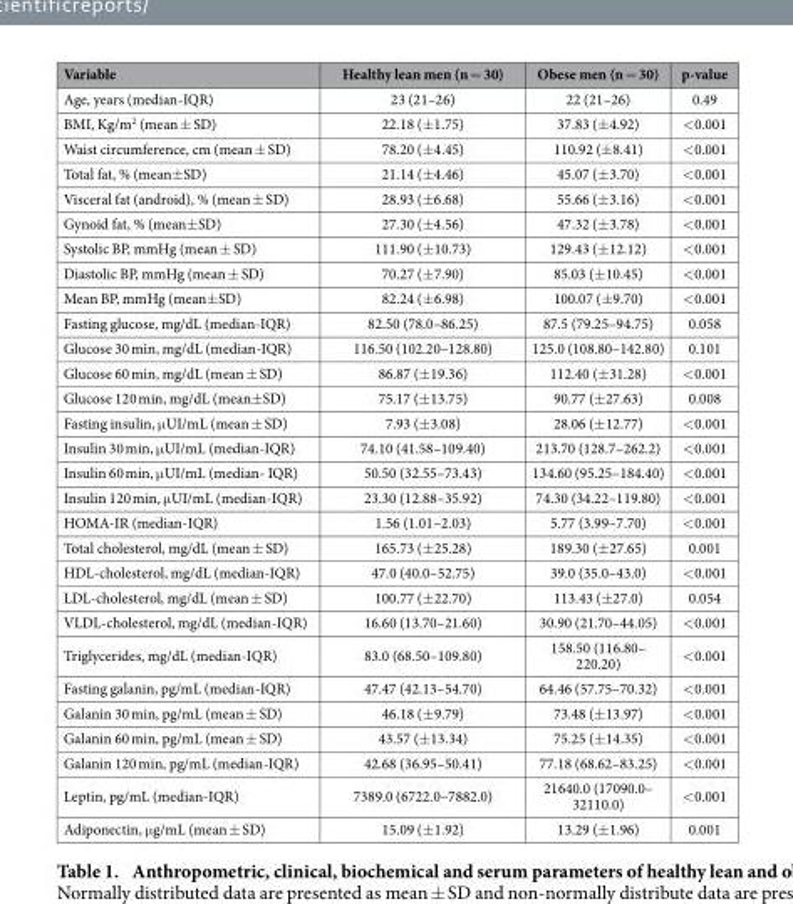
<table><thead><tr><td>Variable</td><td>Healthy lean men (n = 30)</td><td>Obese men (n = 30)</td><td>p-value</td></tr></thead><tbody><tr><td>Age, years (median-IQR)</td><td>23 (21–26)</td><td>22 (21–26)</td><td>0.49</td></tr><tr><td>BMI, Kg/m<sup>2</sup> (mean ± SD)</td><td>22.18 (± 1.75)</td><td>37.83 (± 4.92)</td><td>&lt; 0.001</td></tr><tr><td>Waist circumference, cm (mean ± SD)</td><td>78.20 (± 4.45)</td><td>110.92 (± 8.41)</td><td>&lt; 0.001</td></tr><tr><td>Total fat, % (mean± SD)</td><td>21.14 (± 4.46)</td><td>45.07 (± 3.70)</td><td>&lt; 0.001</td></tr><tr><td>Visceral fat (android), % (mean ± SD)</td><td>28.93 (± 6.68)</td><td>55.66 (± 3.16)</td><td>&lt; 0.001</td></tr><tr><td>Gynoid fat, % (mean± SD)</td><td>27.30 (± 4.56)</td><td>47.32 (± 3.78)</td><td>&lt; 0.001</td></tr><tr><td>Systolic BP, mmHg (mean ± SD)</td><td>111.90 (± 10.73)</td><td>129.43 (± 12.12)</td><td>&lt; 0.001</td></tr><tr><td>Diastolic BP, mmHg (mean ± SD)</td><td>70.27 (± 7.90)</td><td>85.03 (± 10.45)</td><td>&lt; 0.001</td></tr><tr><td>Mean BP, mmHg (mean± SD)</td><td>82.24 (± 6.98)</td><td>100.07 (± 9.70)</td><td>&lt; 0.001</td></tr><tr><td>Fasting glucose, mg/dL (median-IQR)</td><td>82.50 (78.0–86.25)</td><td>87.5 (79.25–94.75)</td><td>0.058</td></tr><tr><td>Glucose 30 min, mg/dL (median-IQR)</td><td>116.50 (102.20–128.80)</td><td>125.0 (108.80–142.80)</td><td>0.101</td></tr><tr><td>Glucose 60 min, mg/dL (mean ± SD)</td><td>86.87 (± 19.36)</td><td>112.40 (± 31.28)</td><td>&lt; 0.001</td></tr><tr><td>Glucose 120 min, mg/dL (mean± SD)</td><td>75.17 (± 13.75)</td><td>90.77 (± 27.63)</td><td>0.008</td></tr><tr><td>Fasting insulin, μ UI/mL (mean ± SD)</td><td>7.93 (± 3.08)</td><td>28.06 (± 12.77)</td><td>&lt; 0.001</td></tr><tr><td>Insulin 30 min, μ UI/mL (median-IQR)</td><td>74.10 (41.58–109.40)</td><td>213.70 (128.7–262.2)</td><td>&lt; 0.001</td></tr><tr><td>Insulin 60 min, μ UI/mL (median- IQR)</td><td>50.50 (32.55–73.43)</td><td>134.60 (95.25–184.40)</td><td>&lt; 0.001</td></tr><tr><td>Insulin 120 min, μ UI/mL (median-IQR)</td><td>23.30 (12.88–35.92)</td><td>74.30 (34.22–119.80)</td><td>&lt; 0.001</td></tr><tr><td>HOMA-IR (median-IQR)</td><td>1.56 (1.01–2.03)</td><td>5.77 (3.99–7.70)</td><td>&lt; 0.001</td></tr><tr><td>Total cholesterol, mg/dL (mean ± SD)</td><td>165.73 (± 25.28)</td><td>189.30 (± 27.65)</td><td>0.001</td></tr><tr><td>HDL-cholesterol, mg/dL (median-IQR)</td><td>47.0 (40.0–52.75)</td><td>39.0 (35.0–43.0)</td><td>&lt; 0.001</td></tr><tr><td>LDL-cholesterol, mg/dL (mean ± SD)</td><td>100.77 (± 22.70)</td><td>113.43 (± 27.0)</td><td>0.054</td></tr><tr><td>VLDL-cholesterol, mg/dL (median-IQR)</td><td>16.60 (13.70–21.60)</td><td>30.90 (21.70–44.05)</td><td>&lt; 0.001</td></tr><tr><td>Triglycerides, mg/dL (median-IQR)</td><td>83.0 (68.50–109.80)</td><td>158.50 (116.80– 220.20)</td><td>&lt; 0.001</td></tr><tr><td>Fasting galanin, pg/mL (median-IQR)</td><td>47.47 (42.13–54.70)</td><td>64.46 (57.75–70.32)</td><td>&lt; 0.001</td></tr><tr><td>Galanin 30 min, pg/mL (mean ± SD)</td><td>46.18 (± 9.79)</td><td>73.48 (± 13.97)</td><td>&lt; 0.001</td></tr><tr><td>Galanin 60 min, pg/mL (mean ± SD)</td><td>43.57 (± 13.34)</td><td>75.25 (± 14.35)</td><td>&lt; 0.001</td></tr><tr><td>Galanin 120 min, pg/mL (median-IQR)</td><td>42.68 (36.95–50.41)</td><td>77.18 (68.62–83.25)</td><td>&lt; 0.001</td></tr><tr><td>Leptin, pg/mL (median-IQR)</td><td>7389.0 (6722.0–7882.0)</td><td>21640.0 (17090.0– 32110.0)</td><td>&lt; 0.001</td></tr><tr><td>Adiponectin, μ g/mL (mean ± SD)</td><td>15.09 (± 1.92)</td><td>13.29 (± 1.96)</td><td>0.001</td></tr></tbody></table>